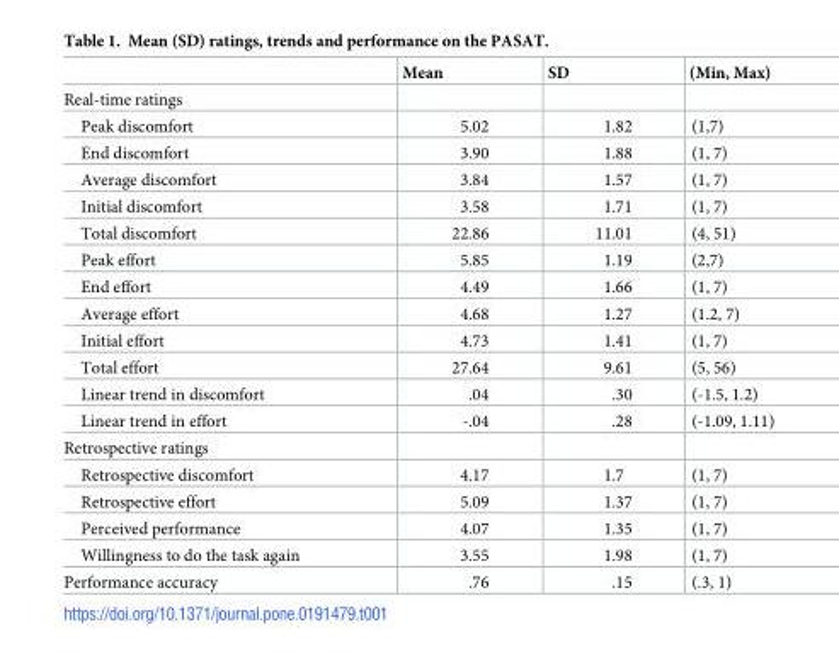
<table><thead><tr><td></td><td>Mean</td><td>SD</td><td>(Min, Max)</td></tr></thead><tbody><tr><td colspan="4">Real-time ratings</td></tr><tr><td>Peak discomfort</td><td>5.02</td><td>1.82</td><td>(1,7)</td></tr><tr><td>End discomfort</td><td>3.90</td><td>1.88</td><td>(1, 7)</td></tr><tr><td>Average discomfort</td><td>3.84</td><td>1.57</td><td>(1, 7)</td></tr><tr><td>Initial discomfort</td><td>3.58</td><td>1.71</td><td>(1, 7)</td></tr><tr><td>Total discomfort</td><td>22.86</td><td>11.01</td><td>(4, 51)</td></tr><tr><td>Peak effort</td><td>5.85</td><td>1.19</td><td>(2,7)</td></tr><tr><td>End effort</td><td>4.49</td><td>1.66</td><td>(1, 7)</td></tr><tr><td>Average effort</td><td>4.68</td><td>1.27</td><td>(1.2, 7)</td></tr><tr><td>Initial effort</td><td>4.73</td><td>1.41</td><td>(1, 7)</td></tr><tr><td>Total effort</td><td>27.64</td><td>9.61</td><td>(5, 56)</td></tr><tr><td>Linear trend in discomfort</td><td>.04</td><td>.30</td><td>(-1.5, 1.2)</td></tr><tr><td>Linear trend in effort</td><td>-.04</td><td>.28</td><td>(-1.09, 1.11)</td></tr><tr><td colspan="4">Retrospective ratings</td></tr><tr><td>Retrospective discomfort</td><td>4.17</td><td>1.7</td><td>(1, 7)</td></tr><tr><td>Retrospective effort</td><td>5.09</td><td>1.37</td><td>(1, 7)</td></tr><tr><td>Perceived performance</td><td>4.07</td><td>1.35</td><td>(1, 7)</td></tr><tr><td>Willingness to do the task again</td><td>3.55</td><td>1.98</td><td>(1, 7)</td></tr><tr><td>Performance accuracy</td><td>.76</td><td>.15</td><td>(.3, 1)</td></tr></tbody></table>